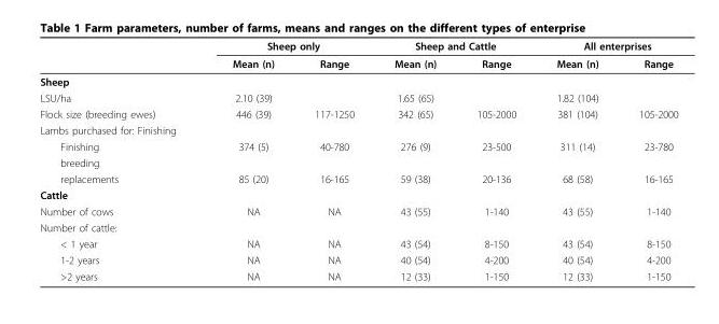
<table><thead><tr><td rowspan="2"></td><td colspan="2">Sheep only</td><td colspan="2">Sheep and Cattle</td><td colspan="2">All enterprises</td></tr><tr><td>Mean (n)</td><td>Range</td><td>Mean (n)</td><td>Range</td><td>Mean (n)</td><td>Range</td></tr></thead><tbody><tr><td colspan="7">Sheep</td></tr><tr><td>LSU/ha</td><td>2.10 (39)</td><td></td><td>1.65 (65)</td><td></td><td>1.82 (104)</td><td></td></tr><tr><td>Flock size (breeding ewes)</td><td>446 (39)</td><td>117-1250</td><td>342 (65)</td><td>105-2000</td><td>381 (104)</td><td>105-2000</td></tr><tr><td colspan="7">Lambs purchased for: Finishing</td></tr><tr><td>Finishing</td><td>374 (5)</td><td>40-780</td><td>276 (9)</td><td>23-500</td><td>311 (14)</td><td>23-780</td></tr><tr><td colspan="7">breeding</td></tr><tr><td>replacements</td><td>85 (20)</td><td>16-165</td><td>59 (38)</td><td>20-136</td><td>68 (58)</td><td>16-165</td></tr><tr><td colspan="7">Cattle</td></tr><tr><td>Number of cows</td><td>NA</td><td>NA</td><td>43 (55)</td><td>1-140</td><td>43 (55)</td><td>1-140</td></tr><tr><td colspan="7">Number of cattle:</td></tr><tr><td>&lt; 1 year</td><td>NA</td><td>NA</td><td>43 (54)</td><td>8-150</td><td>43 (54)</td><td>8-150</td></tr><tr><td>1-2 years</td><td>NA</td><td>NA</td><td>40 (54)</td><td>4-200</td><td>40 (54)</td><td>4-200</td></tr><tr><td>&gt;2 years</td><td>NA</td><td>NA</td><td>12 (33)</td><td>1-150</td><td>12 (33)</td><td>1-150</td></tr></tbody></table>